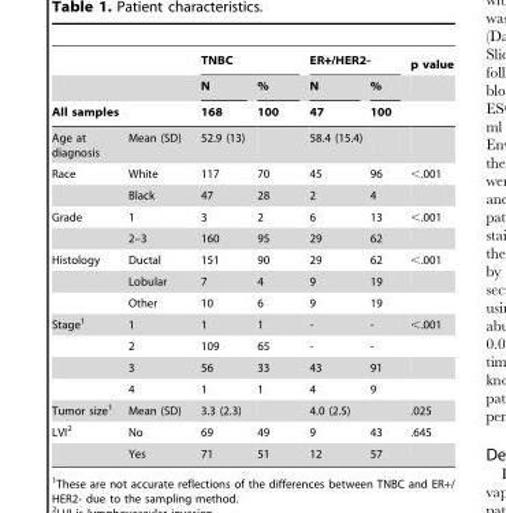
<table><thead><tr><td rowspan="2"></td><td rowspan="2"></td><td colspan="2">TNBC</td><td colspan="2">ER+/HER2-</td><td rowspan="3">p value</td></tr><tr><td rowspan="2">N 168</td><td rowspan="2">% 100</td><td rowspan="2">N 47</td><td rowspan="2">% 100</td></tr><tr><td colspan="2">All samples</td></tr></thead><tbody><tr><td>Age at diagnosis</td><td>Mean (SD)</td><td>52.9 (13)</td><td></td><td>58.4 (15.4)</td><td></td><td></td></tr><tr><td rowspan="2">Race</td><td>White</td><td>117</td><td>70</td><td>45</td><td>96</td><td>&lt;.001</td></tr><tr><td>Black</td><td>47</td><td>28</td><td>2</td><td>4</td><td></td></tr><tr><td rowspan="2">Grade</td><td>1</td><td>3</td><td>2</td><td>6</td><td>13</td><td>&lt;.001</td></tr><tr><td>2–3</td><td>160</td><td>95</td><td>29</td><td>62</td><td></td></tr><tr><td rowspan="3">Histology</td><td>Ductal</td><td>151</td><td>90</td><td>29</td><td>62</td><td>&lt;.001</td></tr><tr><td>Lobular</td><td>7</td><td>4</td><td>9</td><td>19</td><td></td></tr><tr><td>Other</td><td>10</td><td>6</td><td>9</td><td>19</td><td></td></tr><tr><td rowspan="4">Stage<sup>1</sup></td><td>1</td><td>1</td><td>1</td><td>-</td><td>-</td><td>&lt;.001</td></tr><tr><td>2</td><td>109</td><td>65</td><td>-</td><td>-</td><td></td></tr><tr><td>3</td><td>56</td><td>33</td><td>43</td><td>91</td><td></td></tr><tr><td>4</td><td>1</td><td>1</td><td>4</td><td>9</td><td></td></tr><tr><td>Tumor size<sup>1</sup></td><td>Mean (SD)</td><td>3.3 (2.3)</td><td></td><td>4.0 (2.5)</td><td></td><td>.025</td></tr><tr><td rowspan="2">LVI<sup>2</sup></td><td>No</td><td>69</td><td>49</td><td>9</td><td>43</td><td>.645</td></tr><tr><td>Yes</td><td>71</td><td>51</td><td>12</td><td>57</td><td></td></tr></tbody></table>